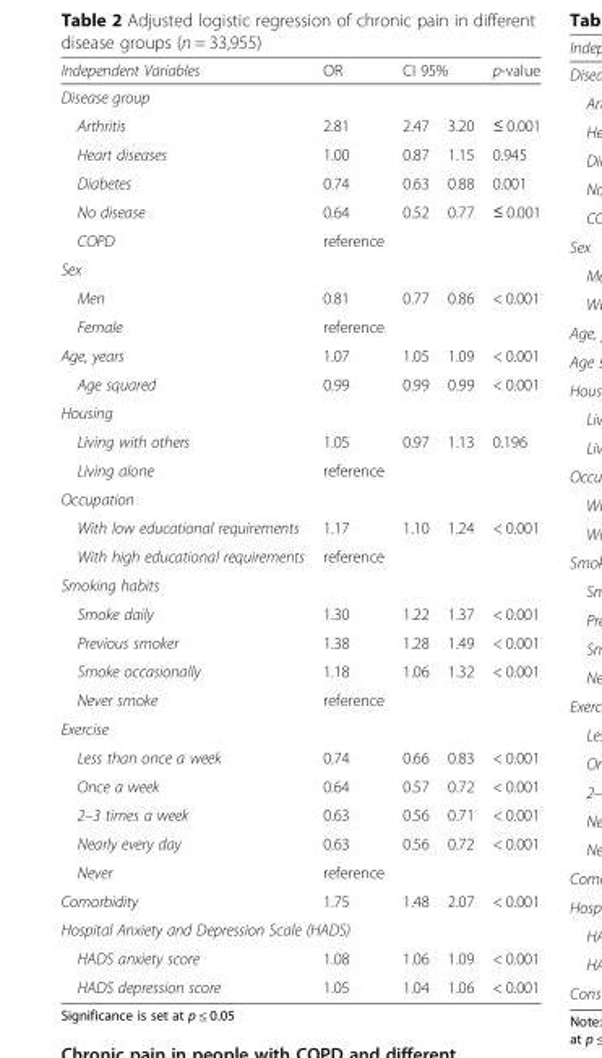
<table><thead><tr><td>Independent Variables</td><td>OR</td><td colspan="2">CI 95%</td><td>p-value</td></tr><tr><td colspan="5">Disease group</td></tr><tr><td>Arthritis</td><td>2.81</td><td>2.47</td><td>3.20</td><td>≤ 0.001</td></tr></thead><tbody><tr><td>Heart diseases</td><td>1.00</td><td>0.87</td><td>1.15</td><td>0.945</td></tr><tr><td>Diabetes</td><td>0.74</td><td>0.63</td><td>0.88</td><td>0.001</td></tr><tr><td>No disease</td><td>0.64</td><td>0.52</td><td>0.77</td><td>≤ 0.001</td></tr><tr><td>COPD</td><td colspan="2">reference</td><td></td><td></td></tr><tr><td colspan="5">Sex</td></tr><tr><td>Men</td><td>0.81</td><td>0.77</td><td>0.86</td><td>&lt; 0.001</td></tr><tr><td>Female</td><td colspan="4">reference</td></tr><tr><td>Age, years</td><td>1.07</td><td>1.05</td><td>1.09</td><td>&lt; 0.001</td></tr><tr><td>Age squared</td><td>0.99</td><td>0.99</td><td>0.99</td><td>&lt; 0.001</td></tr><tr><td colspan="5">Housing</td></tr><tr><td>Living with others</td><td>1.05</td><td>0.97</td><td>1.13</td><td>0.196</td></tr><tr><td>Living alone</td><td>reference</td><td></td><td></td><td></td></tr><tr><td colspan="5">Occupation</td></tr><tr><td>With low educational requirements</td><td>1.17</td><td>1.10</td><td>1.24</td><td>&lt; 0.001</td></tr><tr><td>With high educational requirements</td><td colspan="2">reference</td><td></td><td></td></tr><tr><td colspan="5">Smoking habits</td></tr><tr><td>Smoke daily</td><td>1.30</td><td>1.22</td><td>1.37</td><td>&lt; 0.001</td></tr><tr><td>Previous smoker</td><td>1.38</td><td>1.28</td><td>1.49</td><td>&lt; 0.001</td></tr><tr><td>Smoke occasionally</td><td>1.18</td><td>1.06</td><td>1.32</td><td>&lt; 0.001</td></tr><tr><td>Never smoke</td><td colspan="2">reference</td><td></td><td></td></tr><tr><td colspan="5">Exercise</td></tr><tr><td>Less than once a week</td><td>0.74</td><td>0.66</td><td>0.83</td><td>&lt; 0.001</td></tr><tr><td>Once a week</td><td>0.64</td><td>0.57</td><td>0.72</td><td>&lt; 0.001</td></tr><tr><td>2–3 times a week</td><td>0.63</td><td>0.56</td><td>0.71</td><td>&lt; 0.001</td></tr><tr><td>Nearly every day</td><td>0.63</td><td>0.56</td><td>0.72</td><td>&lt; 0.001</td></tr><tr><td>Never</td><td colspan="2">reference</td><td></td><td></td></tr><tr><td>Comorbidity</td><td>1.75</td><td>1.48</td><td>2.07</td><td>&lt; 0.001</td></tr><tr><td colspan="5">Hospital Anxiety and Depression Scale (HADS)</td></tr><tr><td>HADS anxiety score</td><td>1.08</td><td>1.06</td><td>1.09</td><td>&lt; 0.001</td></tr><tr><td>HADS depression score</td><td>1.05</td><td>1.04</td><td>1.06</td><td>&lt; 0.001</td></tr></tbody></table>